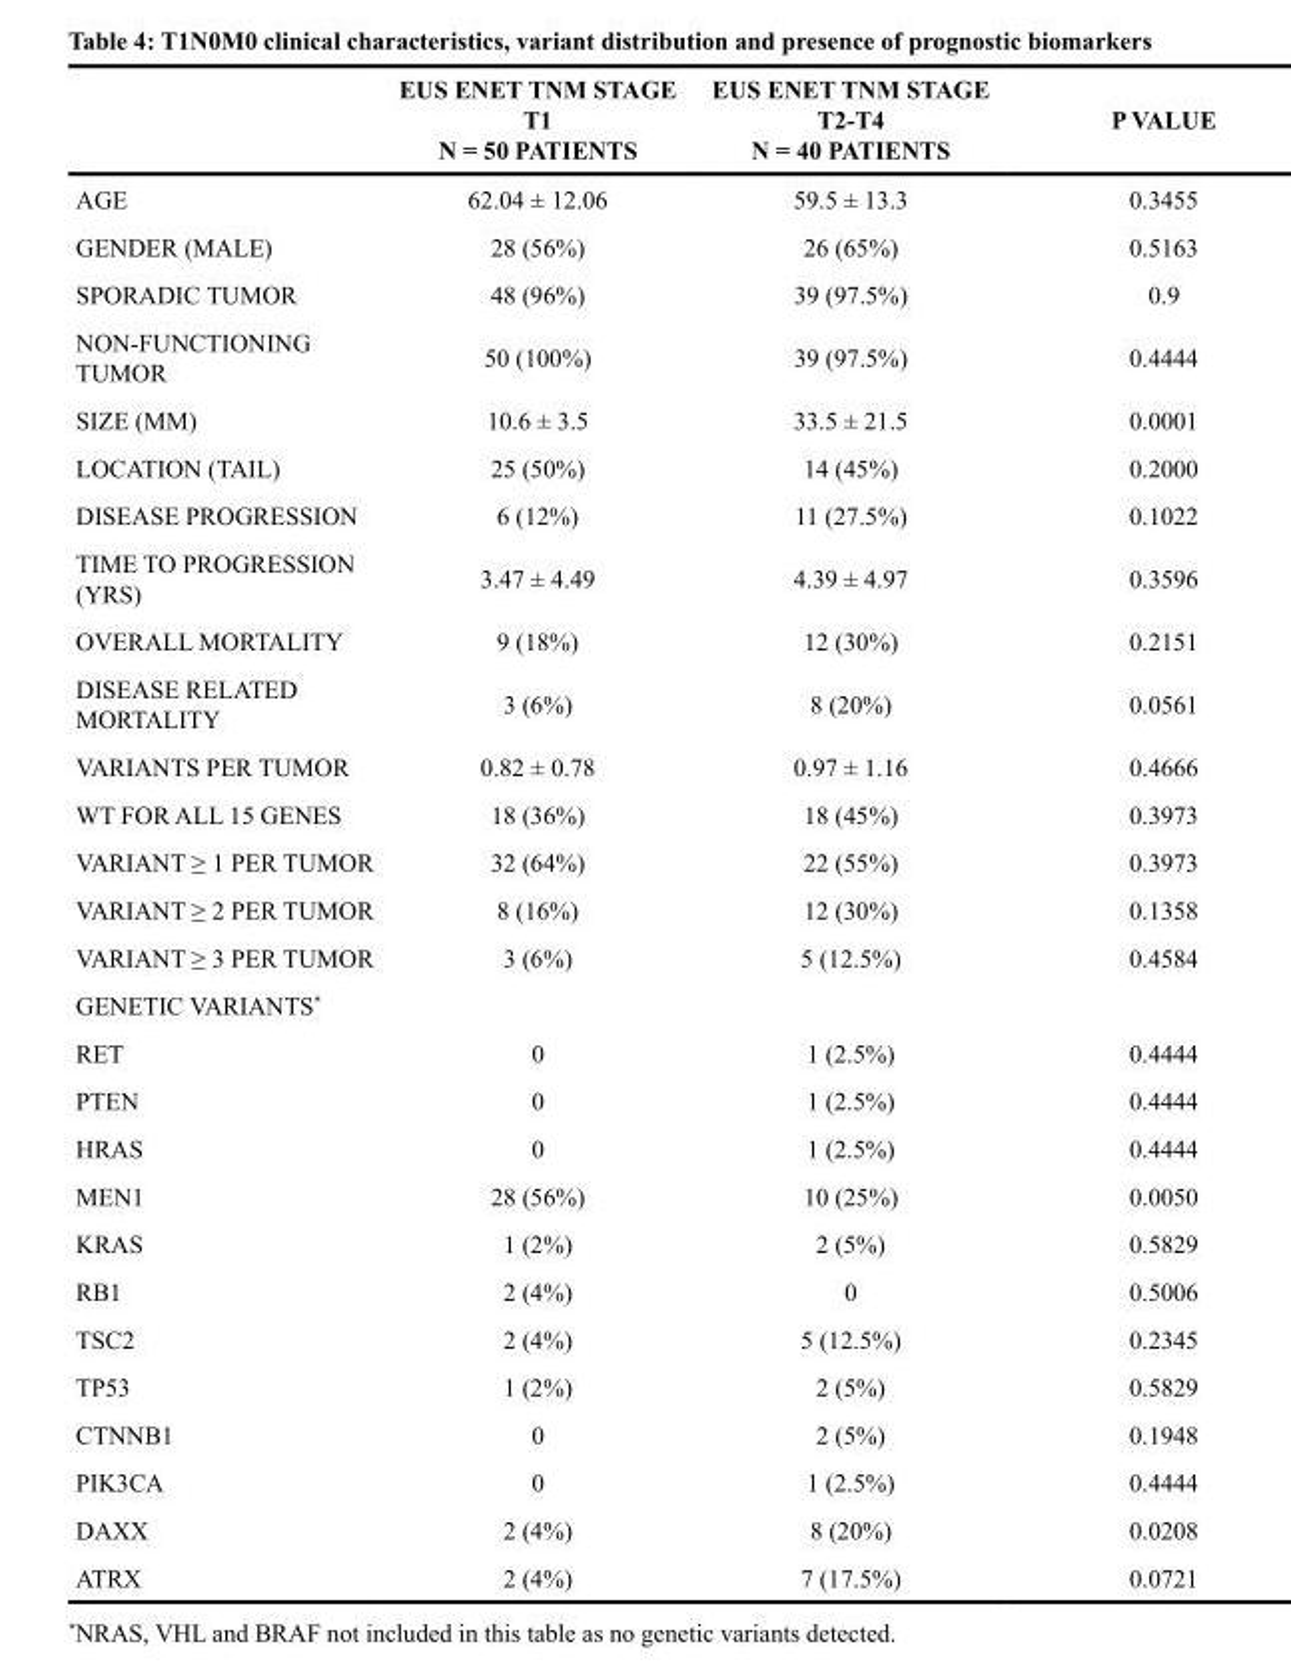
<table><thead><tr><td></td><td>EUS ENET TNM STAGE T1 N = 50 PATIENTS</td><td>EUS ENET TNM STAGE T2-T4 N = 40 PATIENTS</td><td>P VALUE</td></tr></thead><tbody><tr><td>AGE</td><td>62.04 ± 12.06</td><td>59.5 ± 13.3</td><td>0.3455</td></tr><tr><td>GENDER (MALE)</td><td>28 (56%)</td><td>26 (65%)</td><td>0.5163</td></tr><tr><td>SPORADIC TUMOR</td><td>48 (96%)</td><td>39 (97.5%)</td><td>0.9</td></tr><tr><td>NON-FUNCTIONING TUMOR</td><td>50 (100%)</td><td>39 (97.5%)</td><td>0.4444</td></tr><tr><td>SIZE (MM)</td><td>10.6 ± 3.5</td><td>33.5 ± 21.5</td><td>0.0001</td></tr><tr><td>LOCATION (TAIL)</td><td>25 (50%)</td><td>14 (45%)</td><td>0.2000</td></tr><tr><td>DISEASE PROGRESSION</td><td>6 (12%)</td><td>11 (27.5%)</td><td>0.1022</td></tr><tr><td>TIME TO PROGRESSION (YRS)</td><td>3.47 ± 4.49</td><td>4.39 ± 4.97</td><td>0.3596</td></tr><tr><td>OVERALL MORTALITY</td><td>9 (18%)</td><td>12 (30%)</td><td>0.2151</td></tr><tr><td>DISEASE RELATED MORTALITY</td><td>3 (6%)</td><td>8 (20%)</td><td>0.0561</td></tr><tr><td>VARIANTS PER TUMOR</td><td>0.82 ± 0.78</td><td>0.97 ± 1.16</td><td>0.4666</td></tr><tr><td>WT FOR ALL 15 GENES</td><td>18 (36%)</td><td>18 (45%)</td><td>0.3973</td></tr><tr><td>VARIANT ≥ 1 PER TUMOR</td><td>32 (64%)</td><td>22 (55%)</td><td>0.3973</td></tr><tr><td>VARIANT ≥ 2 PER TUMOR</td><td>8 (16%)</td><td>12 (30%)</td><td>0.1358</td></tr><tr><td>VARIANT ≥ 3 PER TUMOR</td><td>3 (6%)</td><td>5 (12.5%)</td><td>0.4584</td></tr><tr><td colspan="4">GENETIC VARIANTS*</td></tr><tr><td>RET</td><td>0</td><td>1 (2.5%)</td><td>0.4444</td></tr><tr><td>PTEN</td><td>0</td><td>1 (2.5%)</td><td>0.4444</td></tr><tr><td>HRAS</td><td>0</td><td>1 (2.5%)</td><td>0.4444</td></tr><tr><td>MEN1</td><td>28 (56%)</td><td>10 (25%)</td><td>0.0050</td></tr><tr><td>KRAS</td><td>1 (2%)</td><td>2 (5%)</td><td>0.5829</td></tr><tr><td>RB1</td><td>2 (4%)</td><td>0</td><td>0.5006</td></tr><tr><td>TSC2</td><td>2 (4%)</td><td>5 (12.5%)</td><td>0.2345</td></tr><tr><td>TP53</td><td>1 (2%)</td><td>2 (5%)</td><td>0.5829</td></tr><tr><td>CTNNB1</td><td>0</td><td>2 (5%)</td><td>0.1948</td></tr><tr><td>PIK3CA</td><td>0</td><td>1 (2.5%)</td><td>0.4444</td></tr><tr><td>DAXX</td><td>2 (4%)</td><td>8 (20%)</td><td>0.0208</td></tr><tr><td>ATRX</td><td>2 (4%)</td><td>7 (17.5%)</td><td>0.0721</td></tr></tbody></table>